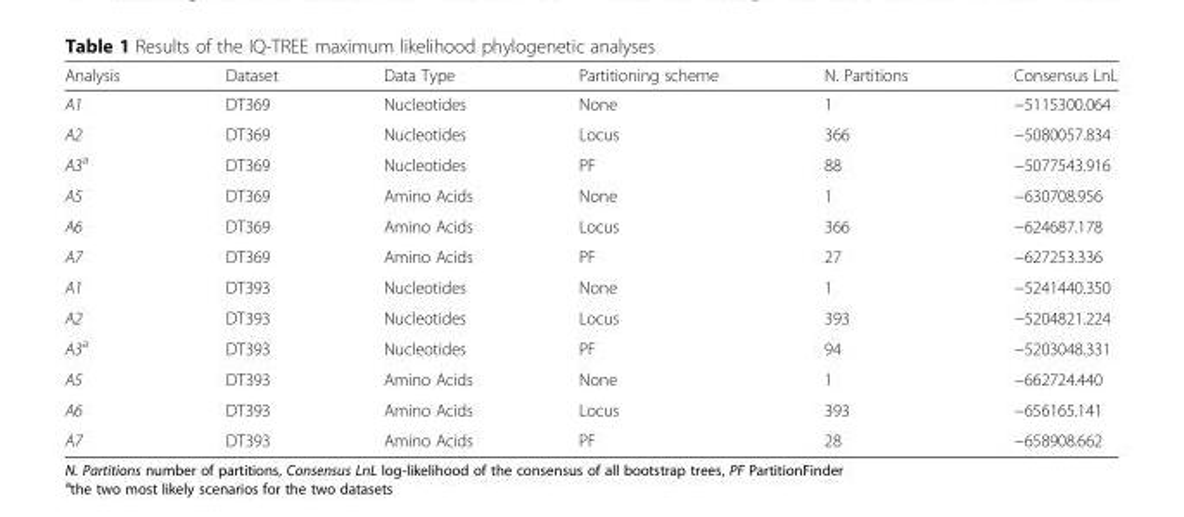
<table><thead><tr><td>Analysis</td><td>Dataset</td><td>Data Type</td><td>Partitioning scheme</td><td>N. Partitions</td><td>Consensus LnL</td></tr></thead><tbody><tr><td>A1</td><td>DT369</td><td>Nucleotides</td><td>None</td><td>1</td><td>−5115300.064</td></tr><tr><td>A2</td><td>DT369</td><td>Nucleotides</td><td>Locus</td><td>366</td><td>−5080057.834</td></tr><tr><td>A3<sup>a</sup></td><td>DT369</td><td>Nucleotides</td><td>PF</td><td>88</td><td>−5077543.916</td></tr><tr><td>A5</td><td>DT369</td><td>Amino Acids</td><td>None</td><td>1</td><td>−630708.956</td></tr><tr><td>A6</td><td>DT369</td><td>Amino Acids</td><td>Locus</td><td>366</td><td>−624687.178</td></tr><tr><td>A7</td><td>DT369</td><td>Amino Acids</td><td>PF</td><td>27</td><td>−627253.336</td></tr><tr><td>A1</td><td>DT393</td><td>Nucleotides</td><td>None</td><td>1</td><td>−5241440.350</td></tr><tr><td>A2</td><td>DT393</td><td>Nucleotides</td><td>Locus</td><td>393</td><td>−5204821.224</td></tr><tr><td>A3<sup>a</sup></td><td>DT393</td><td>Nucleotides</td><td>PF</td><td>94</td><td>−5203048.331</td></tr><tr><td>A5</td><td>DT393</td><td>Amino Acids</td><td>None</td><td>1</td><td>−662724.440</td></tr><tr><td>A6</td><td>DT393</td><td>Amino Acids</td><td>Locus</td><td>393</td><td>−656165.141</td></tr><tr><td>A7</td><td>DT393</td><td>Amino Acids</td><td>PF</td><td>28</td><td>−658908.662</td></tr></tbody></table>